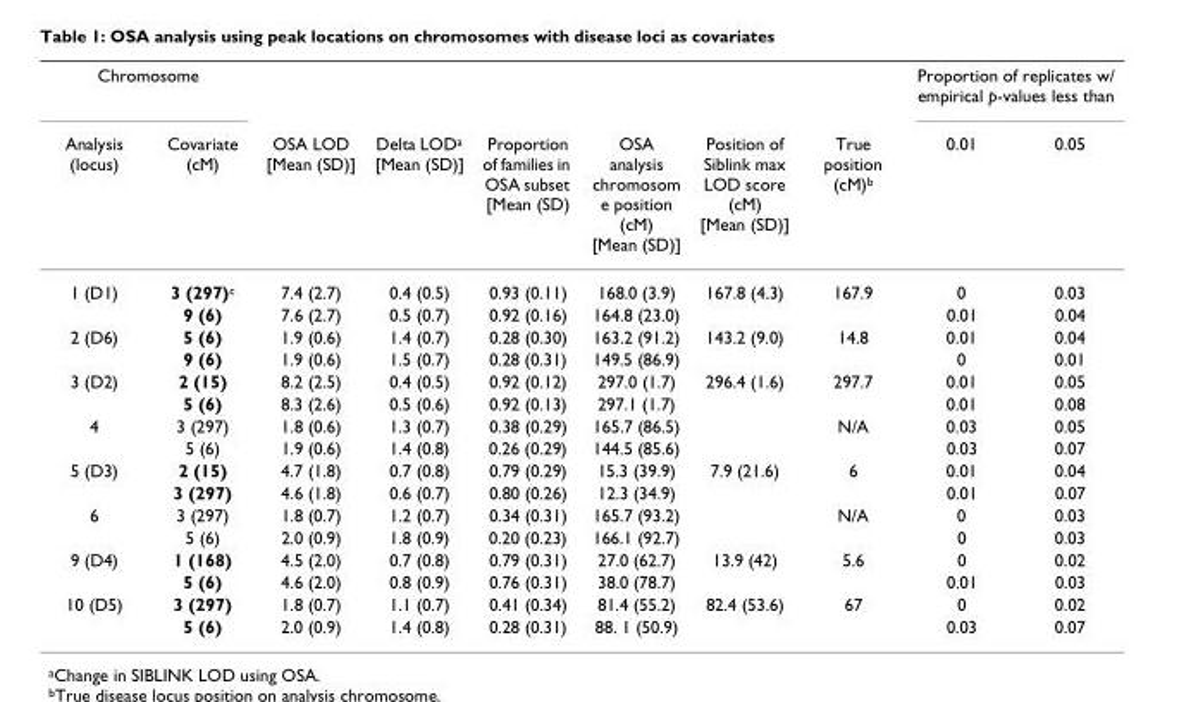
<table><thead><tr><td colspan="2">Chromosome</td><td rowspan="2">OSA LOD [Mean (SD)]</td><td rowspan="2">Delta LODa [Mean (SD)]</td><td rowspan="2">Proportion of families in OSA subset [Mean (SD)</td><td rowspan="2">OSA analysis chromosom e position (cM) [Mean (SD)]</td><td rowspan="2">Position of Siblink max LOD score (cM) [Mean (SD)]</td><td rowspan="2">True position (cM)b</td><td colspan="2">Proportion of replicates w/ empirical p-values less than</td></tr><tr><td>Analysis (locus)</td><td>Covariate (cM)</td><td>0.01</td><td>0.05</td></tr></thead><tbody><tr><td rowspan="2">1 (D1)</td><td>3 (297)c</td><td>7.4 (2.7)</td><td>0.4 (0.5)</td><td>0.93 (0.11)</td><td>168.0 (3.9)</td><td>167.8 (4.3)</td><td>167.9</td><td>0</td><td>0.03</td></tr><tr><td>9 (6)</td><td>7.6 (2.7)</td><td>0.5 (0.7)</td><td>0.92 (0.16)</td><td>164.8 (23.0)</td><td></td><td></td><td>0.01</td><td>0.04</td></tr><tr><td rowspan="2">2 (D6)</td><td>5 (6)</td><td>1.9 (0.6)</td><td>1.4 (0.7)</td><td>0.28 (0.30)</td><td>163.2 (91.2)</td><td>143.2 (9.0)</td><td>14.8</td><td>0.01</td><td>0.04</td></tr><tr><td>9 (6)</td><td>1.9 (0.6)</td><td>1.5 (0.7)</td><td>0.28 (0.31)</td><td>149.5 (86.9)</td><td></td><td></td><td>0</td><td>0.01</td></tr><tr><td rowspan="2">3 (D2)</td><td>2 (15)</td><td>8.2 (2.5)</td><td>0.4 (0.5)</td><td>0.92 (0.12)</td><td>297.0 (1.7)</td><td>296.4 (1.6)</td><td>297.7</td><td>0.01</td><td>0.05</td></tr><tr><td>5 (6)</td><td>8.3 (2.6)</td><td>0.5 (0.6)</td><td>0.92 (0.13)</td><td>297.1 (1.7)</td><td></td><td></td><td>0.01</td><td>0.08</td></tr><tr><td rowspan="2">4</td><td>3 (297)</td><td>1.8 (0.6)</td><td>1.3 (0.7)</td><td>0.38 (0.29)</td><td>165.7 (86.5)</td><td></td><td>N/A</td><td>0.03</td><td>0.05</td></tr><tr><td>5 (6)</td><td>1.9 (0.6)</td><td>1.4 (0.8)</td><td>0.26 (0.29)</td><td>144.5 (85.6)</td><td></td><td></td><td>0.03</td><td>0.07</td></tr><tr><td rowspan="2">5 (D3)</td><td>2 (15)</td><td>4.7 (1.8)</td><td>0.7 (0.8)</td><td>0.79 (0.29)</td><td>15.3 (39.9)</td><td>7.9 (21.6)</td><td>6</td><td>0.01</td><td>0.04</td></tr><tr><td>3 (297)</td><td>4.6 (1.8)</td><td>0.6 (0.7)</td><td>0.80 (0.26)</td><td>12.3 (34.9)</td><td></td><td></td><td>0.01</td><td>0.07</td></tr><tr><td rowspan="2">6</td><td>3 (297)</td><td>1.8 (0.7)</td><td>1.2 (0.7)</td><td>0.34 (0.31)</td><td>165.7 (93.2)</td><td></td><td>N/A</td><td>0</td><td>0.03</td></tr><tr><td>5 (6)</td><td>2.0 (0.9)</td><td>1.8 (0.9)</td><td>0.20 (0.23)</td><td>166.1 (92.7)</td><td></td><td></td><td>0</td><td>0.03</td></tr><tr><td rowspan="2">9 (D4)</td><td>1 (168)</td><td>4.5 (2.0)</td><td>0.7 (0.8)</td><td>0.79 (0.31)</td><td>27.0 (62.7)</td><td>13.9 (42)</td><td>5.6</td><td>0</td><td>0.02</td></tr><tr><td>5 (6)</td><td>4.6 (2.0)</td><td>0.8 (0.9)</td><td>0.76 (0.31)</td><td>38.0 (78.7)</td><td></td><td></td><td>0.01</td><td>0.03</td></tr><tr><td rowspan="2">10 (D5)</td><td>3 (297)</td><td>1.8 (0.7)</td><td>1.1 (0.7)</td><td>0.41 (0.34)</td><td>81.4 (55.2)</td><td>82.4 (53.6)</td><td>67</td><td>0</td><td>0.02</td></tr><tr><td>5 (6)</td><td>2.0 (0.9)</td><td>1.4 (0.8)</td><td>0.28 (0.31)</td><td>88. 1 (50.9)</td><td></td><td></td><td>0.03</td><td>0.07</td></tr></tbody></table>